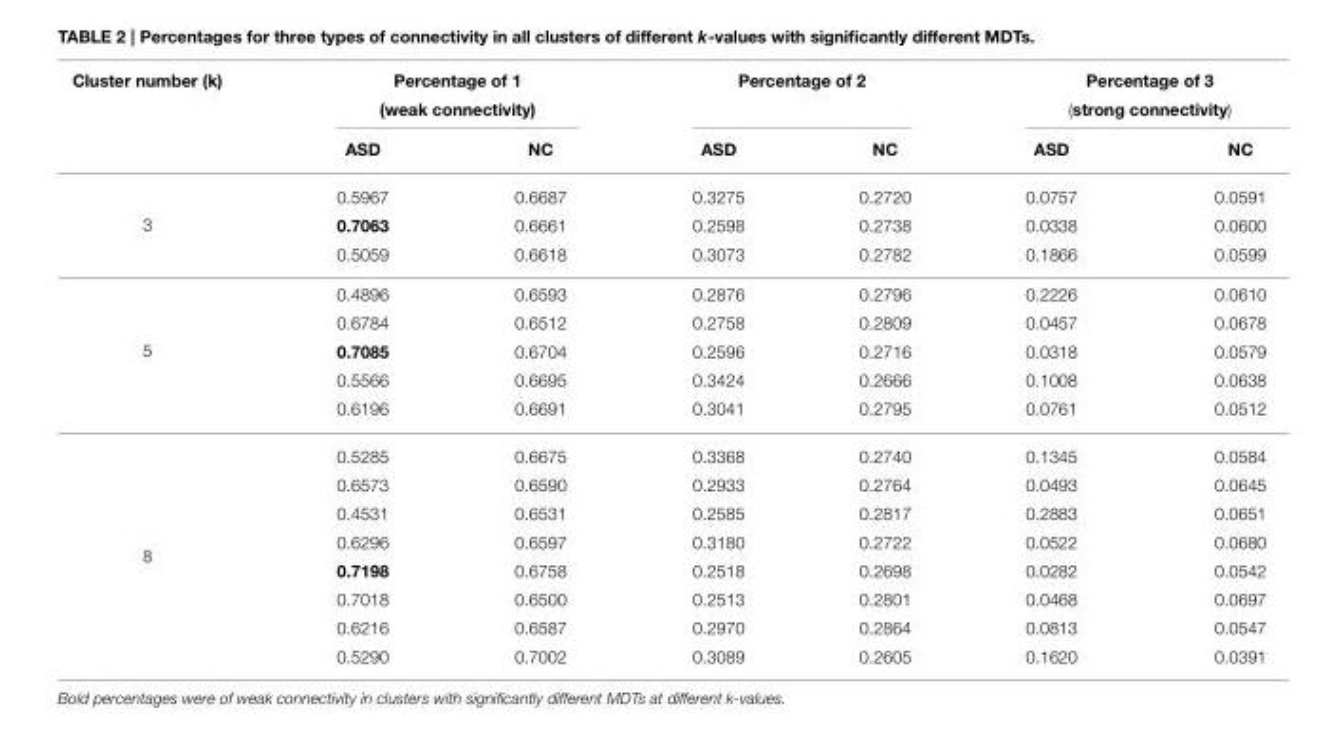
<table><thead><tr><td rowspan="2">Cluster number (k)</td><td colspan="2">Percentage of 1 (weak connectivity)</td><td colspan="2">Percentage of 2</td><td colspan="2">Percentage of 3 (strong connectivity)</td></tr><tr><td>ASD</td><td>NC</td><td>ASD</td><td>NC</td><td>ASD</td><td>NC</td></tr></thead><tbody><tr><td rowspan="3">3</td><td>0.5967</td><td>0.6687</td><td>0.3275</td><td>0.2720</td><td>0.0757</td><td>0.0591</td></tr><tr><td>0.7063</td><td>0.6661</td><td>0.2598</td><td>0.2738</td><td>0.0338</td><td>0.0600</td></tr><tr><td>0.5059</td><td>0.6618</td><td>0.3073</td><td>0.2782</td><td>0.1866</td><td>0.0599</td></tr><tr><td rowspan="5">5</td><td>0.4896</td><td>0.6593</td><td>0.2876</td><td>0.2796</td><td>0.2226</td><td>0.0610</td></tr><tr><td>0.6784</td><td>0.6512</td><td>0.2758</td><td>0.2809</td><td>0.0457</td><td>0.0678</td></tr><tr><td>0.7085</td><td>0.6704</td><td>0.2596</td><td>0.2716</td><td>0.0318</td><td>0.0579</td></tr><tr><td>0.5566</td><td>0.6695</td><td>0.3424</td><td>0.2666</td><td>0.1008</td><td>0.0638</td></tr><tr><td>0.6196</td><td>0.6691</td><td>0.3041</td><td>0.2795</td><td>0.0761</td><td>0.0512</td></tr><tr><td rowspan="8">8</td><td>0.5285</td><td>0.6675</td><td>0.3368</td><td>0.2740</td><td>0.1345</td><td>0.0584</td></tr><tr><td>0.6573</td><td>0.6590</td><td>0.2933</td><td>0.2764</td><td>0.0493</td><td>0.0645</td></tr><tr><td>0.4531</td><td>0.6531</td><td>0.2585</td><td>0.2817</td><td>0.2883</td><td>0.0651</td></tr><tr><td>0.6296</td><td>0.6597</td><td>0.3180</td><td>0.2722</td><td>0.0522</td><td>0.0680</td></tr><tr><td>0.7198</td><td>0.6758</td><td>0.2518</td><td>0.2698</td><td>0.0282</td><td>0.0542</td></tr><tr><td>0.7018</td><td>0.6500</td><td>0.2513</td><td>0.2801</td><td>0.0468</td><td>0.0697</td></tr><tr><td>0.6216</td><td>0.6587</td><td>0.2970</td><td>0.2864</td><td>0.0813</td><td>0.0547</td></tr><tr><td>0.5290</td><td>0.7002</td><td>0.3089</td><td>0.2605</td><td>0.1620</td><td>0.0391</td></tr></tbody></table>